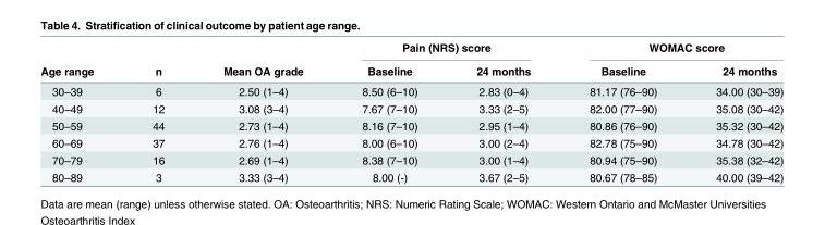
<table><thead><tr><td rowspan="2">Age range</td><td rowspan="2">n</td><td rowspan="2">Mean OA grade</td><td colspan="2">Pain (NRS) score</td><td colspan="2">WOMAC score</td></tr><tr><td>Baseline</td><td>24 months</td><td>Baseline</td><td>24 months</td></tr></thead><tbody><tr><td>30–39</td><td>6</td><td>2.50 (1–4)</td><td>8.50 (6–10)</td><td>2.83 (0–4)</td><td>81.17 (76–90)</td><td>34.00 (30–39)</td></tr><tr><td>40–49</td><td>12</td><td>3.08 (3–4)</td><td>7.67 (7–10)</td><td>3.33 (2–5)</td><td>82.00 (77–90)</td><td>35.08 (30–42)</td></tr><tr><td>50–59</td><td>44</td><td>2.73 (1–4)</td><td>8.16 (7–10)</td><td>2.95 (1–4)</td><td>80.86 (76–90)</td><td>35.32 (30–42)</td></tr><tr><td>60–69</td><td>37</td><td>2.76 (1–4)</td><td>8.00 (6–10)</td><td>3.00 (2–4)</td><td>82.78 (75–90)</td><td>34.78 (30–42)</td></tr><tr><td>70–79</td><td>16</td><td>2.69 (1–4)</td><td>8.38 (7–10)</td><td>3.00 (1–4)</td><td>80.94 (75–90)</td><td>35.38 (32–42)</td></tr><tr><td>80–89</td><td>3</td><td>3.33 (3–4)</td><td>8.00 (-)</td><td>3.67 (2–5)</td><td>80.67 (78–85)</td><td>40.00 (39–42)</td></tr></tbody></table>